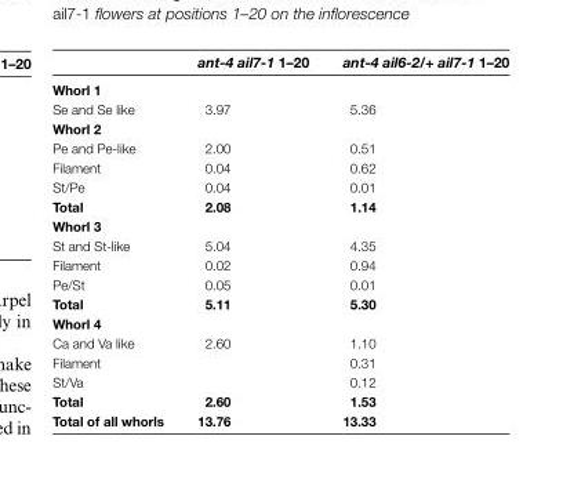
<table><thead><tr><td></td><td>ant-4 ail7-1 1–20</td><td>ant-4 ail6-2/+ ail7-1 1–20</td></tr></thead><tbody><tr><td colspan="3">Whorl 1</td></tr><tr><td>Se and Se like</td><td>3.97</td><td>5.36</td></tr><tr><td colspan="3">Whorl 2</td></tr><tr><td>Pe and Pe-like</td><td>2.00</td><td>0.51</td></tr><tr><td>Filament</td><td>0.04</td><td>0.62</td></tr><tr><td>St/Pe</td><td>0.04</td><td>0.01</td></tr><tr><td>Total</td><td>2.08</td><td>1.14</td></tr><tr><td colspan="3">Whorl 3</td></tr><tr><td>St and St-like</td><td>5.04</td><td>4.35</td></tr><tr><td>Filament</td><td>0.02</td><td>0.94</td></tr><tr><td>Pe/St</td><td>0.05</td><td>0.01</td></tr><tr><td>Total</td><td>5.11</td><td>5.30</td></tr><tr><td colspan="3">Whorl 4</td></tr><tr><td>Ca and Va like</td><td>2.60</td><td>1.10</td></tr><tr><td>Filament</td><td></td><td>0.31</td></tr><tr><td>St/Va</td><td></td><td>0.12</td></tr><tr><td>Total</td><td>2.60</td><td>1.53</td></tr><tr><td>Total of all whorls</td><td>13.76</td><td>13.33</td></tr></tbody></table>